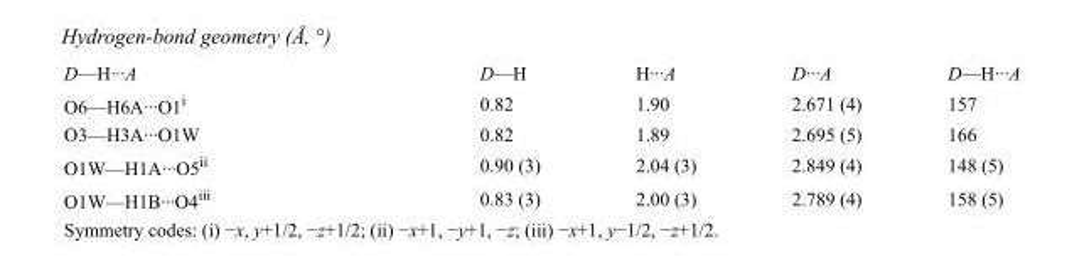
<table><tbody><tr><td>D—H···A</td><td>D—H</td><td>H···A</td><td>D···A</td><td>D—H···A</td></tr><tr><td>O6—H6A···O1<sup>i</sup></td><td>0.82</td><td>1.90</td><td>2.671 (4)</td><td>157</td></tr><tr><td>O3—H3A···O1W</td><td>0.82</td><td>1.89</td><td>2.695 (5)</td><td>166</td></tr><tr><td>O1W—H1A···O5<sup>ii</sup></td><td>0.90 (3)</td><td>2.04 (3)</td><td>2.849 (4)</td><td>148 (5)</td></tr><tr><td>O1W—H1B···O4<sup>iii</sup></td><td>0.83 (3)</td><td>2.00 (3)</td><td>2.789 (4)</td><td>158 (5)</td></tr></tbody></table>